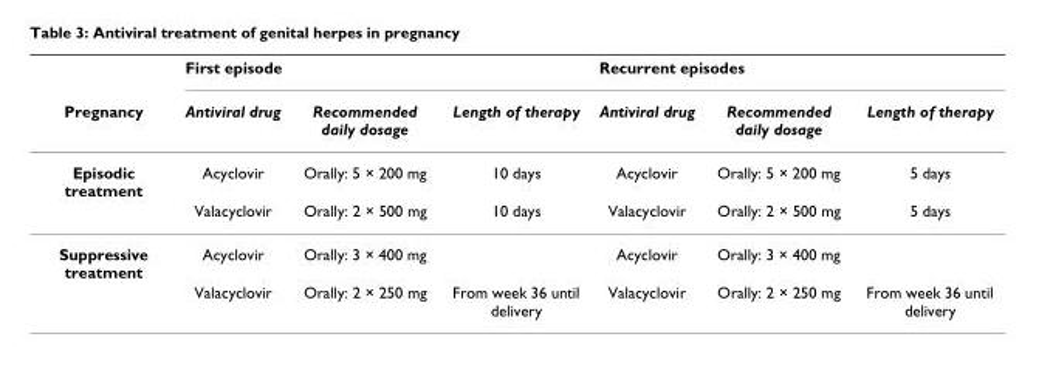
<table><thead><tr><td rowspan="2">Pregnancy</td><td colspan="3">First episode</td><td colspan="3">Recurrent episodes</td></tr><tr><td>Antiviral drug</td><td>Recommended daily dosage</td><td>Length of therapy</td><td>Antiviral drug</td><td>Recommended daily dosage</td><td>Length of therapy</td></tr></thead><tbody><tr><td rowspan="2">Episodic treatment</td><td>Acyclovir</td><td>Orally: 5 × 200 mg</td><td>10 days</td><td>Acyclovir</td><td>Orally: 5 × 200 mg</td><td>5 days</td></tr><tr><td>Valacyclovir</td><td>Orally: 2 × 500 mg</td><td>10 days</td><td>Valacyclovir</td><td>Orally: 2 × 500 mg</td><td>5 days</td></tr><tr><td rowspan="2">Suppressive treatment</td><td>Acyclovir</td><td>Orally: 3 × 400 mg</td><td></td><td>Acyclovir</td><td>Orally: 3 × 400 mg</td><td></td></tr><tr><td>Valacyclovir</td><td>Orally: 2 × 250 mg</td><td>From week 36 until delivery</td><td>Valacyclovir</td><td>Orally: 2 × 250 mg</td><td>From week 36 until delivery</td></tr></tbody></table>